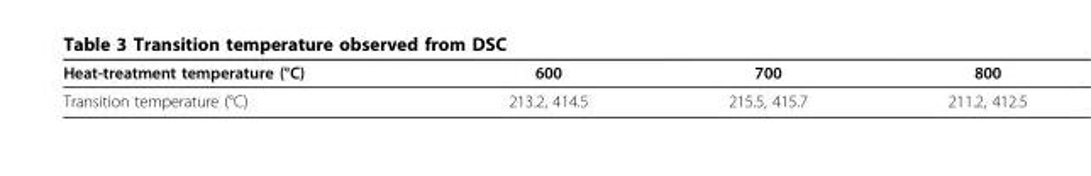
<table><thead><tr><td>Heat-treatment temperature (°C)</td><td>600</td><td>700</td><td>800</td></tr></thead><tbody><tr><td>Transition temperature (°C)</td><td>213.2, 414.5</td><td>215.5, 415.7</td><td>211.2, 412.5</td></tr></tbody></table>